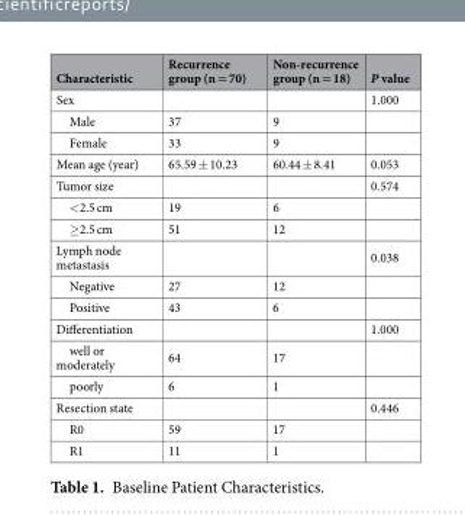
<table><thead><tr><td>Characteristic</td><td>Recurrence group (n = 70)</td><td>Non-recurrence group (n = 18)</td><td>P value</td></tr></thead><tbody><tr><td>Sex</td><td></td><td></td><td>1.000</td></tr><tr><td>Male</td><td>37</td><td>9</td><td></td></tr><tr><td>Female</td><td>33</td><td>9</td><td></td></tr><tr><td>Mean age (year)</td><td>65.59 ± 10.23</td><td>60.44 ± 8.41</td><td>0.053</td></tr><tr><td>Tumor size</td><td></td><td></td><td>0.574</td></tr><tr><td>&lt;2.5 cm</td><td>19</td><td>6</td><td></td></tr><tr><td>≥2.5 cm</td><td>51</td><td>12</td><td></td></tr><tr><td>Lymph node metastasis</td><td></td><td></td><td>0.038</td></tr><tr><td>Negative</td><td>27</td><td>12</td><td></td></tr><tr><td>Positive</td><td>43</td><td>6</td><td></td></tr><tr><td>Differentiation</td><td></td><td></td><td>1.000</td></tr><tr><td>well or moderately</td><td>64</td><td>17</td><td></td></tr><tr><td>poorly</td><td>6</td><td>1</td><td></td></tr><tr><td>Resection state</td><td></td><td></td><td>0.446</td></tr><tr><td>R0</td><td>59</td><td>17</td><td></td></tr><tr><td>R1</td><td>11</td><td>1</td><td></td></tr></tbody></table>